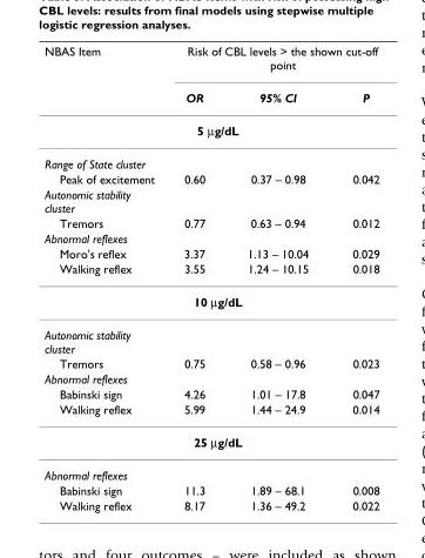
<table><thead><tr><td rowspan="2">NBAS Item</td><td colspan="3">Risk of CBL levels &gt; the shown cut-off point</td></tr><tr><td>OR</td><td>95% CI</td><td>P</td></tr></thead><tbody><tr><td colspan="4">5 μg/dL</td></tr><tr><td colspan="4">Range of State cluster</td></tr><tr><td>Peak of excitement</td><td>0.60</td><td>0.37 – 0.98</td><td>0.042</td></tr><tr><td colspan="4">Autonomic stability cluster</td></tr><tr><td>Tremors</td><td>0.77</td><td>0.63 – 0.94</td><td>0.012</td></tr><tr><td colspan="4">Abnormal reflexes</td></tr><tr><td>Moro&#x27;s reflex</td><td>3.37</td><td>1.13 – 10.04</td><td>0.029</td></tr><tr><td>Walking reflex</td><td>3.55</td><td>1.24 – 10.15</td><td>0.018</td></tr><tr><td colspan="4">10 μg/dL</td></tr><tr><td colspan="4">Autonomic stability cluster</td></tr><tr><td>Tremors</td><td>0.75</td><td>0.58 – 0.96</td><td>0.023</td></tr><tr><td colspan="4">Abnormal reflexes</td></tr><tr><td>Babinski sign</td><td>4.26</td><td>1.01 – 17.8</td><td>0.047</td></tr><tr><td>Walking reflex</td><td>5.99</td><td>1.44 – 24.9</td><td>0.014</td></tr><tr><td colspan="4">25 μg/dL</td></tr><tr><td colspan="4">Abnormal reflexes</td></tr><tr><td>Babinski sign</td><td>11.3</td><td>1.89 – 68.1</td><td>0.008</td></tr><tr><td>Walking reflex</td><td>8.17</td><td>1.36 – 49.2</td><td>0.022</td></tr></tbody></table>